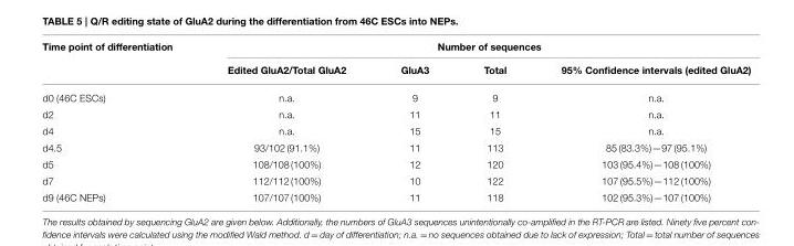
<table><thead><tr><td rowspan="2">Time point of differentiation</td><td colspan="4">Number of sequences</td></tr><tr><td>Edited GluA2/Total GluA2</td><td>GluA3</td><td>Total</td><td>95% Confidence intervals (edited GluA2)</td></tr></thead><tbody><tr><td>d0 (46C ESCs)</td><td>n.a.</td><td>9</td><td>9</td><td>n.a.</td></tr><tr><td>d2</td><td>n.a.</td><td>11</td><td>11</td><td>n.a.</td></tr><tr><td>d4</td><td>n.a.</td><td>15</td><td>15</td><td>n.a.</td></tr><tr><td>d4.5</td><td>93/102 (91.1%)</td><td>11</td><td>113</td><td>85 (83.3%)—97 (95.1%)</td></tr><tr><td>d5</td><td>108/108 (100%)</td><td>12</td><td>120</td><td>103 (95.4%)—108 (100%)</td></tr><tr><td>d7</td><td>112/112 (100%)</td><td>10</td><td>122</td><td>107 (95.5%)—112 (100%)</td></tr><tr><td>d9 (46C NEPs)</td><td>107/107 (100%)</td><td>11</td><td>118</td><td>102 (95.3%)—107 (100%)</td></tr></tbody></table>